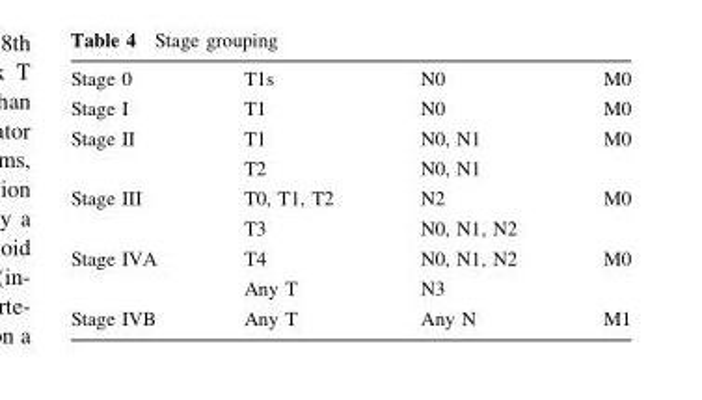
<table><tbody><tr><td>Stage 0</td><td>T1s</td><td>N0</td><td>M0</td></tr><tr><td>Stage I</td><td>T1</td><td>N0</td><td>M0</td></tr><tr><td rowspan="2">Stage II</td><td>T1</td><td>N0, N1</td><td rowspan="2">M0</td></tr><tr><td>T2</td><td>N0, N1</td></tr><tr><td rowspan="2">Stage III</td><td>T0, T1, T2</td><td>N2</td><td rowspan="2">M0</td></tr><tr><td>T3</td><td>N0, N1, N2</td></tr><tr><td rowspan="2">Stage IVA</td><td>T4</td><td>N0, N1, N2</td><td rowspan="2">M0</td></tr><tr><td>Any T</td><td>N3</td></tr><tr><td>Stage IVB</td><td>Any T</td><td>Any N</td><td>M1</td></tr></tbody></table>